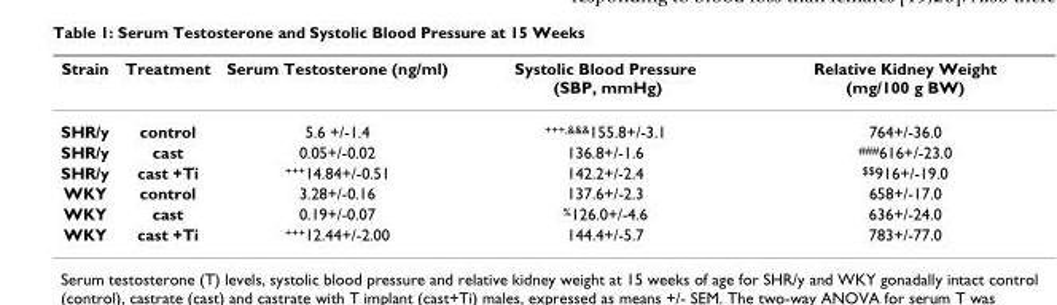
<table><thead><tr><td>Strain</td><td>Treatment</td><td>Serum Testosterone (ng/ml)</td><td>Systolic Blood Pressure (SBP, mmHg)</td><td>Relative Kidney Weight (mg/100 g BW)</td></tr></thead><tbody><tr><td>SHR/y</td><td>control</td><td>5.6 +/-1.4</td><td><sup>+++,&amp;&amp;&amp;</sup>155.8+/-3.1</td><td>764+/-36.0</td></tr><tr><td>SHR/y</td><td>cast</td><td>0.05+/-0.02</td><td>136.8+/-1.6</td><td><sup>###</sup>616+/-23.0</td></tr><tr><td>SHR/y</td><td>cast +Ti</td><td><sup>+++</sup>14.84+/-0.51</td><td>142.2+/-2.4</td><td><sup>$$</sup>916+/-19.0</td></tr><tr><td>WKY</td><td>control</td><td>3.28+/-0.16</td><td>137.6+/-2.3</td><td>658+/-17.0</td></tr><tr><td>WKY</td><td>cast</td><td>0.19+/-0.07</td><td><sup>%</sup>126.0+/-4.6</td><td>636+/-24.0</td></tr><tr><td>WKY</td><td>cast +Ti</td><td><sup>+++</sup>12.44+/-2.00</td><td>144.4+/-5.7</td><td>783+/-77.0</td></tr></tbody></table>